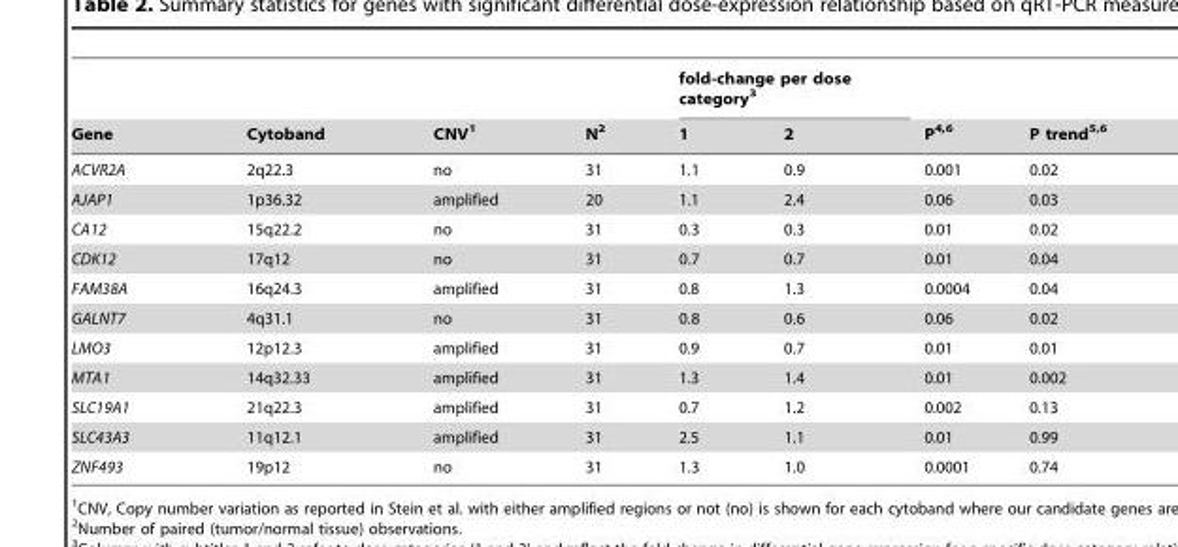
<table><thead><tr><td rowspan="2">Gene</td><td rowspan="2">Cytoband</td><td rowspan="2">CNV<sup>1</sup></td><td rowspan="2">N<sup>2</sup></td><td colspan="2">fold-change per dose category<sup>3</sup></td><td rowspan="2">P<sup>4,6</sup></td><td rowspan="2">P trend<sup>5,6</sup></td></tr><tr><td>1</td><td>2</td></tr></thead><tbody><tr><td>ACVR2A</td><td>2q22.3</td><td>no</td><td>31</td><td>1.1</td><td>0.9</td><td>0.001</td><td>0.02</td></tr><tr><td>AJAP1</td><td>1p36.32</td><td>amplified</td><td>20</td><td>1.1</td><td>2.4</td><td>0.06</td><td>0.03</td></tr><tr><td>CA12</td><td>15q22.2</td><td>no</td><td>31</td><td>0.3</td><td>0.3</td><td>0.01</td><td>0.02</td></tr><tr><td>CDK12</td><td>17q12</td><td>no</td><td>31</td><td>0.7</td><td>0.7</td><td>0.01</td><td>0.04</td></tr><tr><td>FAM38A</td><td>16q24.3</td><td>amplified</td><td>31</td><td>0.8</td><td>1.3</td><td>0.0004</td><td>0.04</td></tr><tr><td>GALNT7</td><td>4q31.1</td><td>no</td><td>31</td><td>0.8</td><td>0.6</td><td>0.06</td><td>0.02</td></tr><tr><td>LMO3</td><td>12p12.3</td><td>amplified</td><td>31</td><td>0.9</td><td>0.7</td><td>0.01</td><td>0.01</td></tr><tr><td>MTA1</td><td>14q32.33</td><td>amplified</td><td>31</td><td>1.3</td><td>1.4</td><td>0.01</td><td>0.002</td></tr><tr><td>SLC19A1</td><td>21q22.3</td><td>amplified</td><td>31</td><td>0.7</td><td>1.2</td><td>0.002</td><td>0.13</td></tr><tr><td>SLC43A3</td><td>11q12.1</td><td>amplified</td><td>31</td><td>2.5</td><td>1.1</td><td>0.01</td><td>0.99</td></tr><tr><td>ZNF493</td><td>19p12</td><td>no</td><td>31</td><td>1.3</td><td>1.0</td><td>0.0001</td><td>0.74</td></tr></tbody></table>